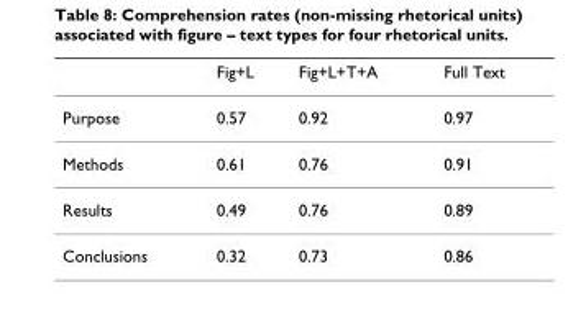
<table><thead><tr><td></td><td>Fig+L</td><td>Fig+L+T+A</td><td>Full Text</td></tr></thead><tbody><tr><td>Purpose</td><td>0.57</td><td>0.92</td><td>0.97</td></tr><tr><td>Methods</td><td>0.61</td><td>0.76</td><td>0.91</td></tr><tr><td>Results</td><td>0.49</td><td>0.76</td><td>0.89</td></tr><tr><td>Conclusions</td><td>0.32</td><td>0.73</td><td>0.86</td></tr></tbody></table>